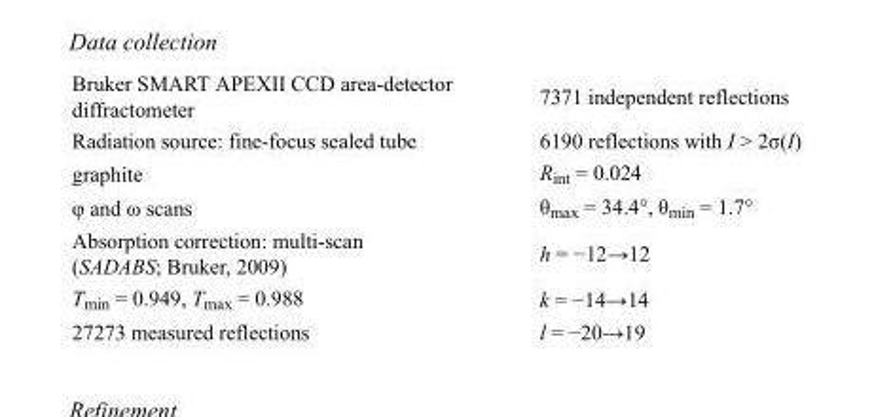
<table><tbody><tr><td>Bruker SMART APEXII CCD area-detector diffractometer</td><td>7371 independent reflections</td></tr><tr><td>Radiation source: fine-focus sealed tube</td><td>6190 reflections with I &gt; 2σ(I)</td></tr><tr><td>graphite</td><td>R<sub>int</sub> = 0.024</td></tr><tr><td>φ and ω scans</td><td>θ<sub>max</sub> = 34.4°, θ<sub>min</sub> = 1.7°</td></tr><tr><td>Absorption correction: multi-scan (SADABS; Bruker, 2009)</td><td>h = −12→12</td></tr><tr><td>T<sub>min</sub> = 0.949, T<sub>max</sub> = 0.988</td><td>k = −14→14</td></tr><tr><td>27273 measured reflections</td><td>l = −20→19</td></tr></tbody></table>